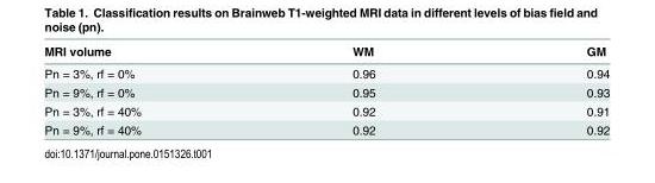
<table><thead><tr><td>MRI volume</td><td>WM</td><td>GM</td></tr></thead><tbody><tr><td>Pn = 3%, rf = 0%</td><td>0.96</td><td>0.94</td></tr><tr><td>Pn = 9%, rf = 0%</td><td>0.95</td><td>0.93</td></tr><tr><td>Pn = 3%, rf = 40%</td><td>0.92</td><td>0.91</td></tr><tr><td>Pn = 9%, rf = 40%</td><td>0.92</td><td>0.92</td></tr></tbody></table>